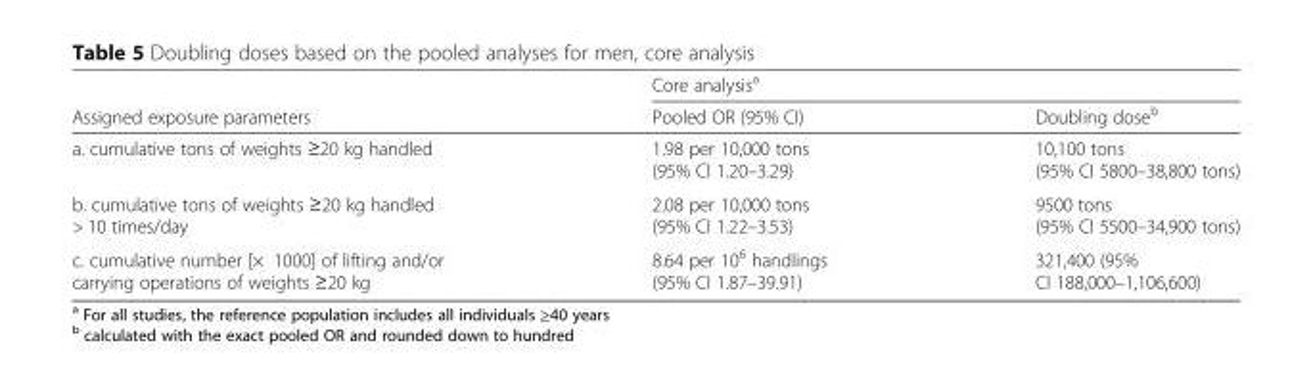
<table><thead><tr><td rowspan="2">Assigned exposure parameters</td><td colspan="2">Core analysis<sup>a</sup></td></tr><tr><td>Pooled OR (95% CI)</td><td>Doubling dose<sup>b</sup></td></tr></thead><tbody><tr><td>a. cumulative tons of weights ≥20 kg handled</td><td>1.98 per 10,000 tons (95% CI 1.20–3.29)</td><td>10,100 tons (95% CI 5800–38,800 tons)</td></tr><tr><td>b. cumulative tons of weights ≥20 kg handled &gt; 10 times/day</td><td>2.08 per 10,000 tons (95% CI 1.22–3.53)</td><td>9500 tons (95% CI 5500–34,900 tons)</td></tr><tr><td>c. cumulative number [× 1000] of lifting and/or carrying operations of weights ≥20 kg</td><td>8.64 per 10<sup>6</sup> handlings (95% CI 1.87–39.91)</td><td>321,400 (95% CI 188,000–1,106,600)</td></tr></tbody></table>